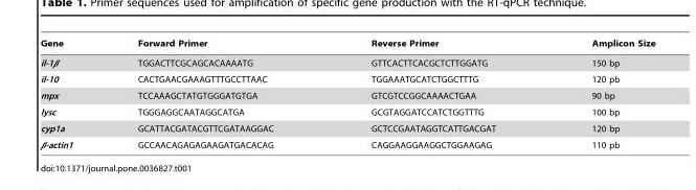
<table><thead><tr><td>Gene</td><td>Forward Primer</td><td>Reverse Primer</td><td>Amplicon Size</td></tr></thead><tbody><tr><td>il-1β</td><td>TGGACTTCGCAGCACAAAATG</td><td>GTTCACTTCACGCTCTTGGATG</td><td>150 bp</td></tr><tr><td>il-10</td><td>CACTGAACGAAAGTTTGCCTTAAC</td><td>TGGAAATGCATCTGGCTTTG</td><td>120 pb</td></tr><tr><td>mpx</td><td>TCCAAAGCTATGTGGGATGTGA</td><td>GTCGTCCGGCAAAACTGAA</td><td>90 bp</td></tr><tr><td>lysc</td><td>TGGGAGGCAATAGGCATGA</td><td>GCGTAGGATCCATCTGGTTTG</td><td>100 bp</td></tr><tr><td>cyp1a</td><td>GCATTACGATACGTTCGATAAGGAC</td><td>GCTCCGAATAGGTCATTGACGAT</td><td>120 bp</td></tr><tr><td>β-actin1</td><td>GCCAACAGAGAGAAGATGACACAG</td><td>CAGGAAGGAAGGCTGGAAGAG</td><td>110 pb</td></tr></tbody></table>